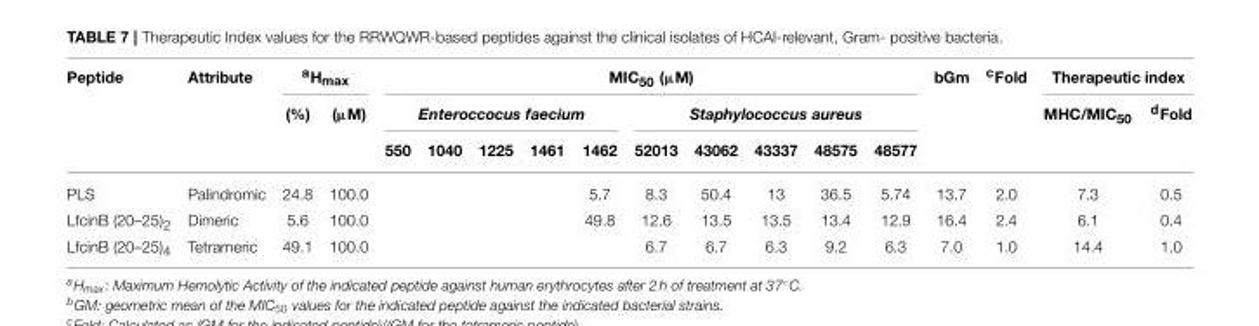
<table><thead><tr><td rowspan="3">Peptide</td><td rowspan="3">Attribute</td><td colspan="2"><sup>a</sup>H<sub>max</sub></td><td colspan="10">MIC<sub>50</sub> (µM)</td><td rowspan="3">bGm</td><td rowspan="3"><sup>c</sup>Fold</td><td colspan="2">Therapeutic index</td></tr><tr><td rowspan="2">(%)</td><td rowspan="2">(µM)</td><td colspan="5">Enteroccocus faecium</td><td colspan="5">Staphylococcus aureus</td><td rowspan="2">MHC/MIC<sub>50</sub></td><td rowspan="2"><sup>d</sup>Fold</td></tr><tr><td>550</td><td>1040</td><td>1225</td><td>1461</td><td>1462</td><td>52013</td><td>43062</td><td>43337</td><td>48575</td><td>48577</td></tr></thead><tbody><tr><td>PLS</td><td>Palindromic</td><td>24.8</td><td>100.0</td><td></td><td></td><td></td><td></td><td>5.7</td><td>8.3</td><td>50.4</td><td>13</td><td>36.5</td><td>5.74</td><td>13.7</td><td>2.0</td><td>7.3</td><td>0.5</td></tr><tr><td>LfcinB (20–25)<sub>2</sub></td><td>Dimeric</td><td>5.6</td><td>100.0</td><td></td><td></td><td></td><td></td><td>49.8</td><td>12.6</td><td>13.5</td><td>13.5</td><td>13.4</td><td>12.9</td><td>16.4</td><td>2.4</td><td>6.1</td><td>0.4</td></tr><tr><td>LfcinB (20–25)<sub>4</sub></td><td>Tetrameric</td><td>49.1</td><td>100.0</td><td></td><td></td><td></td><td></td><td></td><td>6.7</td><td>6.7</td><td>6.3</td><td>9.2</td><td>6.3</td><td>7.0</td><td>1.0</td><td>14.4</td><td>1.0</td></tr></tbody></table>